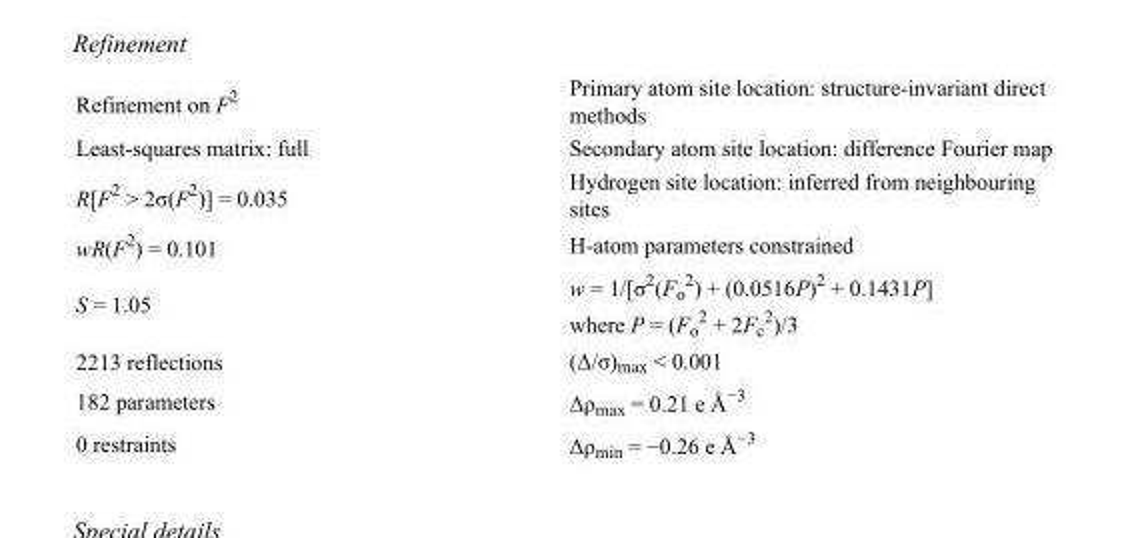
<table><tbody><tr><td>Refinement on F<sup>2</sup></td><td>Primary atom site location: structure-invariant direct methods</td></tr><tr><td>Least-squares matrix: full</td><td>Secondary atom site location: difference Fourier map</td></tr><tr><td>R[F<sup>2</sup> &gt; 2σ(F<sup>2</sup>)] = 0.035</td><td>Hydrogen site location: inferred from neighbouring sites</td></tr><tr><td>wR(F<sup>2</sup>) = 0.101</td><td>H-atom parameters constrained</td></tr><tr><td>S = 1.05</td><td>w = 1/[σ<sup>2</sup>(F<sub>o</sub> <sup>2</sup>) + (0.0516P)<sup>2</sup> + 0.1431P] where P = (F<sub>o</sub> <sup>2</sup> + 2F<sub>c</sub> <sup>2</sup>)/3</td></tr><tr><td>2213 reflections</td><td>(Δ/σ)<sub>max</sub> &lt; 0.001</td></tr><tr><td>182 parameters</td><td>Δρ<sub>max</sub> = 0.21 e Å<sup>−3</sup></td></tr><tr><td>0 restraints</td><td>Δρ<sub>min</sub> = −0.26 e Å<sup>−3</sup></td></tr></tbody></table>